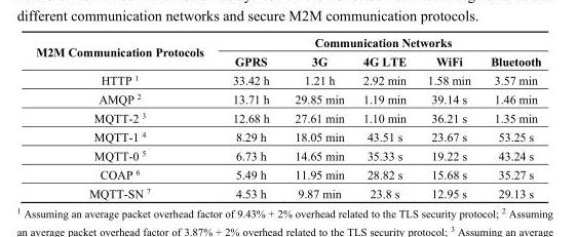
<table><thead><tr><td rowspan="2">M2M Communication Protocols</td><td colspan="5">Communication Networks</td></tr><tr><td>GPRS</td><td>3G</td><td>4G LTE</td><td>WiFi</td><td>Bluetooth</td></tr></thead><tbody><tr><td>HTTP <sup>1</sup></td><td>33.42 h</td><td>1.21 h</td><td>2.92 min</td><td>1.58 min</td><td>3.57 min</td></tr><tr><td>AMQP <sup>2</sup></td><td>13.71 h</td><td>29.85 min</td><td>1.19 min</td><td>39.14 s</td><td>1.46 min</td></tr><tr><td>MQTT-2 <sup>3</sup></td><td>12.68 h</td><td>27.61 min</td><td>1.10 min</td><td>36.21 s</td><td>1.35 min</td></tr><tr><td>MQTT-1 <sup>4</sup></td><td>8.29 h</td><td>18.05 min</td><td>43.51 s</td><td>23.67 s</td><td>53.25 s</td></tr><tr><td>MQTT-0 <sup>5</sup></td><td>6.73 h</td><td>14.65 min</td><td>35.33 s</td><td>19.22 s</td><td>43.24 s</td></tr><tr><td>COAP <sup>6</sup></td><td>5.49 h</td><td>11.95 min</td><td>28.82 s</td><td>15.68 s</td><td>35.27 s</td></tr><tr><td>MQTT-SN <sup>7</sup></td><td>4.53 h</td><td>9.87 min</td><td>23.8 s</td><td>12.95 s</td><td>29.13 s</td></tr></tbody></table>